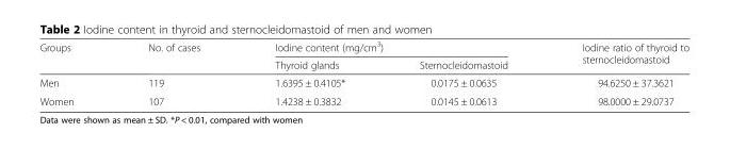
<table><thead><tr><td rowspan="2">Groups</td><td rowspan="2">No. of cases</td><td colspan="2">Iodine content (mg/cm<sup>3</sup>)</td><td rowspan="2">Iodine ratio of thyroid to sternocleidomastoid</td></tr><tr><td>Thyroid glands</td><td>Sternocleidomastoid</td></tr></thead><tbody><tr><td>Men</td><td>119</td><td>1.6395 ± 0.4105*</td><td>0.0175 ± 0.0635</td><td>94.6250 ± 37.3621</td></tr><tr><td>Women</td><td>107</td><td>1.4238 ± 0.3832</td><td>0.0145 ± 0.0613</td><td>98.0000 ± 29.0737</td></tr></tbody></table>